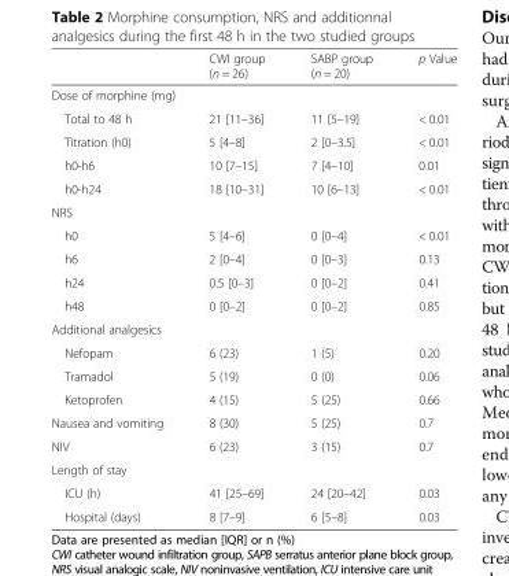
<table><thead><tr><td></td><td>CWI group (n = 26)</td><td>SABP group (n = 20)</td><td>p Value</td></tr></thead><tbody><tr><td colspan="4">Dose of morphine (mg)</td></tr><tr><td>Total to 48 h</td><td>21 [11–36]</td><td>11 [5–19]</td><td>&lt; 0.01</td></tr><tr><td>Titration (h0)</td><td>5 [4–8]</td><td>2 [0–3.5]</td><td>&lt; 0.01</td></tr><tr><td>h0-h6</td><td>10 [7–15]</td><td>7 [4–10]</td><td>0.01</td></tr><tr><td>h0-h24</td><td>18 [10–31]</td><td>10 [6–13]</td><td>&lt; 0.01</td></tr><tr><td colspan="4">NRS</td></tr><tr><td>h0</td><td>5 [4–6]</td><td>0 [0–4]</td><td>&lt; 0.01</td></tr><tr><td>h6</td><td>2 [0–4]</td><td>0 [0–3]</td><td>0.13</td></tr><tr><td>h24</td><td>0.5 [0–3]</td><td>0 [0–2]</td><td>0.41</td></tr><tr><td>h48</td><td>0 [0–2]</td><td>0 [0–2]</td><td>0.85</td></tr><tr><td colspan="4">Additional analgesics</td></tr><tr><td>Nefopam</td><td>6 (23)</td><td>1 (5)</td><td>0.20</td></tr><tr><td>Tramadol</td><td>5 (19)</td><td>0 (0)</td><td>0.06</td></tr><tr><td>Ketoprofen</td><td>4 (15)</td><td>5 (25)</td><td>0.66</td></tr><tr><td>Nausea and vomiting</td><td>8 (30)</td><td>5 (25)</td><td>0.7</td></tr><tr><td>NIV</td><td>6 (23)</td><td>3 (15)</td><td>0.7</td></tr><tr><td colspan="4">Length of stay</td></tr><tr><td>ICU (h)</td><td>41 [25–69]</td><td>24 [20–42]</td><td>0.03</td></tr><tr><td>Hospital (days)</td><td>8 [7–9]</td><td>6 [5–8]</td><td>0.03</td></tr></tbody></table>